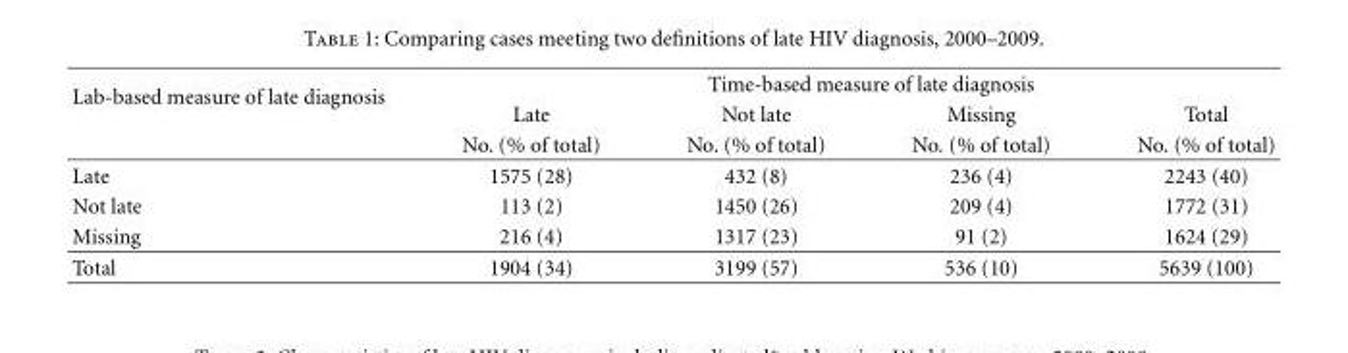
<table><thead><tr><td rowspan="3">Lab-based measure of late diagnosis</td><td colspan="4">Time-based measure of late diagnosis</td></tr><tr><td rowspan="2">Late No. (% of total)</td><td rowspan="2">Not late No. (% of total)</td><td rowspan="2">Missing No. (% of total)</td><td rowspan="2">Total No. (% of total)</td></tr><tr></tr></thead><tbody><tr><td>Late</td><td>1575 (28)</td><td>432 (8)</td><td>236 (4)</td><td>2243 (40)</td></tr><tr><td>Not late</td><td>113 (2)</td><td>1450 (26)</td><td>209 (4)</td><td>1772 (31)</td></tr><tr><td>Missing</td><td>216 (4)</td><td>1317 (23)</td><td>91 (2)</td><td>1624 (29)</td></tr><tr><td>Total</td><td>1904 (34)</td><td>3199 (57)</td><td>536 (10)</td><td>5639 (100)</td></tr></tbody></table>